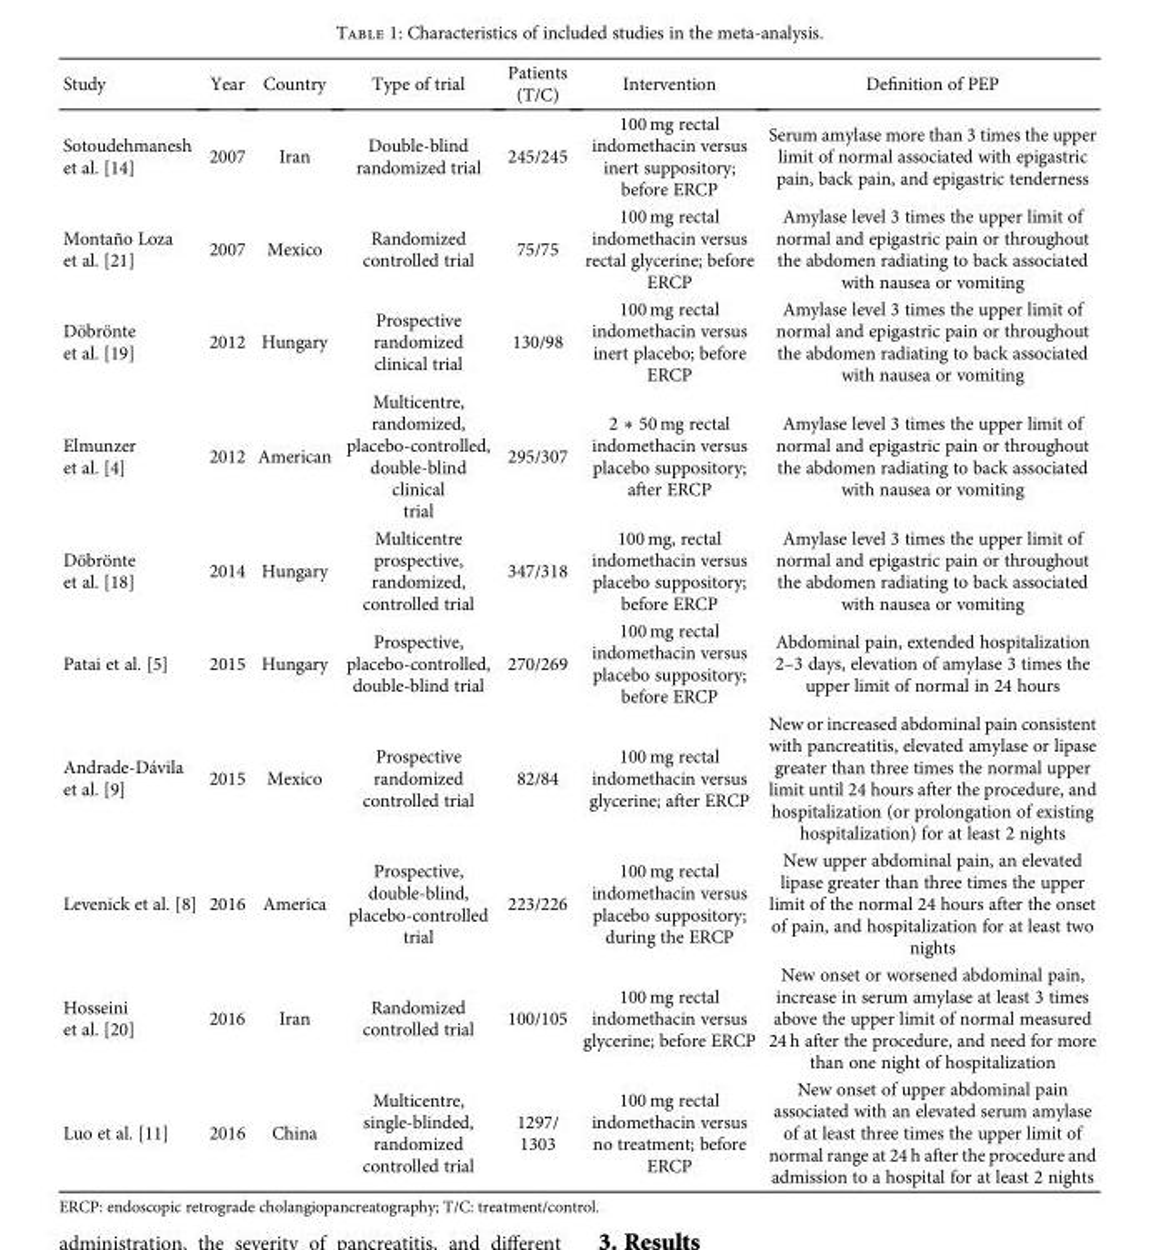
<table><thead><tr><td>Study</td><td>Year</td><td>Country</td><td>Type of trial</td><td>Patients (T/C)</td><td>Intervention</td><td>Definition of PEP</td></tr></thead><tbody><tr><td>Sotoudehmanesh et al. [14]</td><td>2007</td><td>Iran</td><td>Double-blind randomized trial</td><td>245/245</td><td>100 mg rectal indomethacin versus inert suppository; before ERCP</td><td>Serum amylase more than 3 times the upper limit of normal associated with epigastric pain, back pain, and epigastric tenderness</td></tr><tr><td>Montaño Loza et al. [21]</td><td>2007</td><td>Mexico</td><td>Randomized controlled trial</td><td>75/75</td><td>100 mg rectal indomethacin versus rectal glycerine; before ERCP</td><td>Amylase level 3 times the upper limit of normal and epigastric pain or throughout the abdomen radiating to back associated with nausea or vomiting</td></tr><tr><td>Döbrönte et al. [19]</td><td>2012</td><td>Hungary</td><td>Prospective randomized clinical trial</td><td>130/98</td><td>100 mg rectal indomethacin versus inert placebo; before ERCP</td><td>Amylase level 3 times the upper limit of normal and epigastric pain or throughout the abdomen radiating to back associated with nausea or vomiting</td></tr><tr><td>Elmunzer et al. [4]</td><td>2012</td><td>American</td><td>Multicentre, randomized, placebo-controlled, double-blind clinical trial</td><td>295/307</td><td>2 ∗ 50 mg rectal indomethacin versus placebo suppository; after ERCP</td><td>Amylase level 3 times the upper limit of normal and epigastric pain or throughout the abdomen radiating to back associated with nausea or vomiting</td></tr><tr><td>Döbrönte et al. [18]</td><td>2014</td><td>Hungary</td><td>Multicentre prospective, randomized, controlled trial</td><td>347/318</td><td>100 mg, rectal indomethacin versus placebo suppository; before ERCP</td><td>Amylase level 3 times the upper limit of normal and epigastric pain or throughout the abdomen radiating to back associated with nausea or vomiting</td></tr><tr><td>Patai et al. [5]</td><td>2015</td><td>Hungary</td><td>Prospective, placebo-controlled, double-blind trial</td><td>270/269</td><td>100 mg rectal indomethacin versus placebo suppository; before ERCP</td><td>Abdominal pain, extended hospitalization 2–3 days, elevation of amylase 3 times the upper limit of normal in 24 hours</td></tr><tr><td>Andrade-Dávila et al. [9]</td><td>2015</td><td>Mexico</td><td>Prospective randomized controlled trial</td><td>82/84</td><td>100 mg rectal indomethacin versus glycerine; after ERCP</td><td>New or increased abdominal pain consistent with pancreatitis, elevated amylase or lipase greater than three times the normal upper limit until 24 hours after the procedure, and hospitalization (or prolongation of existing hospitalization) for at least 2 nights</td></tr><tr><td>Levenick et al. [8]</td><td>2016</td><td>America</td><td>Prospective, double-blind, placebo-controlled trial</td><td>223/226</td><td>100 mg rectal indomethacin versus placebo suppository; during the ERCP</td><td>New upper abdominal pain, an elevated lipase greater than three times the upper limit of the normal 24 hours after the onset of pain, and hospitalization for at least two nights</td></tr><tr><td>Hosseini et al. [20]</td><td>2016</td><td>Iran</td><td>Randomized controlled trial</td><td>100/105</td><td>100 mg rectal indomethacin versus glycerine; before ERCP</td><td>New onset or worsened abdominal pain, increase in serum amylase at least 3 times above the upper limit of normal measured 24 h after the procedure, and need for more than one night of hospitalization</td></tr><tr><td>Luo et al. [11]</td><td>2016</td><td>China</td><td>Multicentre, single-blinded, randomized controlled trial</td><td>1297/ 1303</td><td>100 mg rectal indomethacin versus no treatment; before ERCP</td><td>New onset of upper abdominal pain associated with an elevated serum amylase of at least three times the upper limit of normal range at 24 h after the procedure and admission to a hospital for at least 2 nights</td></tr></tbody></table>